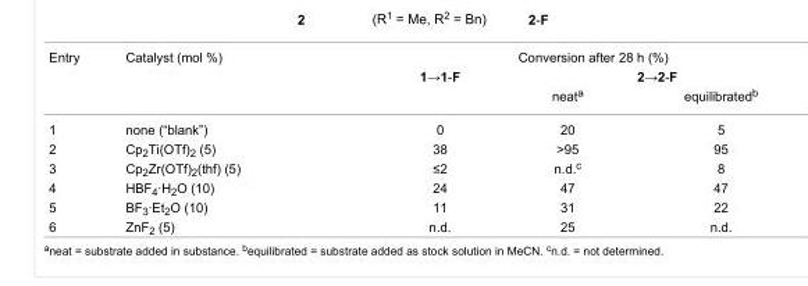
<table><tbody><tr><td rowspan="3">Entry</td><td rowspan="3">Catalyst (mol %)</td><td colspan="3">Conversion after 28 h (%)</td></tr><tr><td rowspan="2">1→1-F</td><td colspan="2">2→2-F</td></tr><tr><td>neat<sup>a</sup></td><td>equilibrated<sup>b</sup></td></tr><tr><td>1</td><td>none (“blank”)</td><td>0</td><td>20</td><td>5</td></tr><tr><td>2</td><td>Cp<sub>2</sub>Ti(OTf)<sub>2</sub> (5)</td><td>38</td><td>&gt;95</td><td>95</td></tr><tr><td>3</td><td>Cp<sub>2</sub>Zr(OTf)<sub>2</sub>(thf) (5)</td><td>≤2</td><td>n.d.<sup>c</sup></td><td>8</td></tr><tr><td>4</td><td>HBF<sub>4</sub>·H<sub>2</sub>O (10)</td><td>24</td><td>47</td><td>47</td></tr><tr><td>5</td><td>BF<sub>3</sub>·Et<sub>2</sub>O (10)</td><td>11</td><td>31</td><td>22</td></tr><tr><td>6</td><td>ZnF<sub>2</sub> (5)</td><td>n.d.</td><td>25</td><td>n.d.</td></tr></tbody></table>